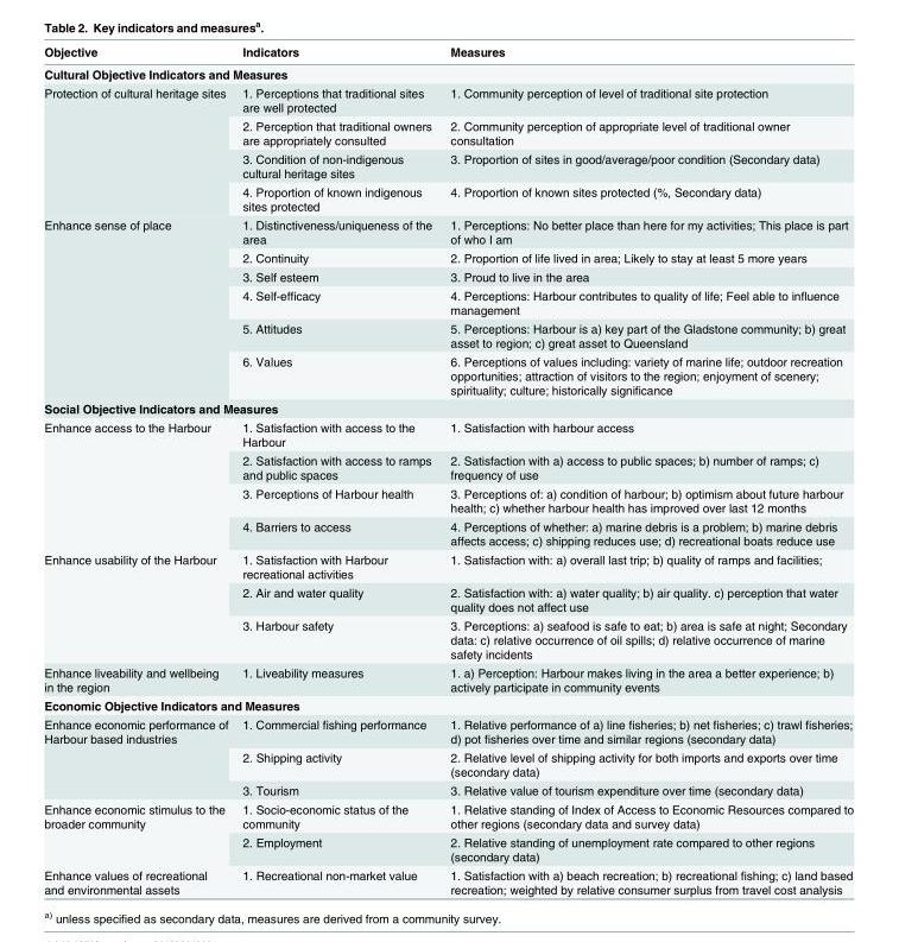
<table><thead><tr><td>Objective</td><td>Indicators</td><td>Measures</td></tr></thead><tbody><tr><td colspan="3">Cultural Objective Indicators and Measures</td></tr><tr><td rowspan="4">Protection of cultural heritage sites</td><td>1. Perceptions that traditional sites are well protected</td><td>1. Community perception of level of traditional site protection</td></tr><tr><td>2. Perception that traditional owners are appropriately consulted</td><td>2. Community perception of appropriate level of traditional owner consultation</td></tr><tr><td>3. Condition of non-indigenous cultural heritage sites</td><td>3. Proportion of sites in good/average/poor condition (Secondary data)</td></tr><tr><td>4. Proportion of known indigenous sites protected</td><td>4. Proportion of known sites protected (%, Secondary data)</td></tr><tr><td rowspan="6">Enhance sense of place</td><td>1. Distinctiveness/uniqueness of the area</td><td>1. Perceptions: No better place than here for my activities; This place is part of who I am</td></tr><tr><td>2. Continuity</td><td>2. Proportion of life lived in area; Likely to stay at least 5 more years</td></tr><tr><td>3. Self esteem</td><td>3. Proud to live in the area</td></tr><tr><td>4. Self-efficacy</td><td>4. Perceptions: Harbour contributes to quality of life; Feel able to influence management</td></tr><tr><td>5. Attitudes</td><td>5. Perceptions: Harbour is a) key part of the Gladstone community; b) great asset to region; c) great asset to Queensland</td></tr><tr><td>6. Values</td><td>6. Perceptions of values including: variety of marine life; outdoor recreation opportunities; attraction of visitors to the region; enjoyment of scenery; spirituality; culture; historically significance</td></tr><tr><td colspan="3">Social Objective Indicators and Measures</td></tr><tr><td rowspan="4">Enhance access to the Harbour</td><td>1. Satisfaction with access to the Harbour</td><td>1. Satisfaction with harbour access</td></tr><tr><td>2. Satisfaction with access to ramps and public spaces</td><td>2. Satisfaction with a) access to public spaces; b) number of ramps; c) frequency of use</td></tr><tr><td>3. Perceptions of Harbour health</td><td>3. Perceptions of: a) condition of harbour; b) optimism about future harbour health; c) whether harbour health has improved over last 12 months</td></tr><tr><td>4. Barriers to access</td><td>4. Perceptions of whether: a) marine debris is a problem; b) marine debris affects access; c) shipping reduces use; d) recreational boats reduce use</td></tr><tr><td rowspan="3">Enhance usability of the Harbour</td><td>1. Satisfaction with Harbour recreational activities</td><td>1. Satisfaction with: a) overall last trip; b) quality of ramps and facilities;</td></tr><tr><td>2. Air and water quality</td><td>2. Satisfaction with: a) water quality; b) air quality. c) perception that water quality does not affect use</td></tr><tr><td>3. Harbour safety</td><td>3. Perceptions: a) seafood is safe to eat; b) area is safe at night; Secondary data: c) relative occurrence of oil spills; d) relative occurrence of marine safety incidents</td></tr><tr><td>Enhance liveability and wellbeing in the region</td><td>1. Liveability measures</td><td>1. a) Perception: Harbour makes living in the area a better experience; b) actively participate in community events</td></tr><tr><td colspan="3">Economic Objective Indicators and Measures</td></tr><tr><td rowspan="3">Enhance economic performance of Harbour based industries</td><td>1. Commercial fishing performance</td><td>1. Relative performance of a) line fisheries; b) net fisheries; c) trawl fisheries; d) pot fisheries over time and similar regions (secondary data)</td></tr><tr><td>2. Shipping activity</td><td>2. Relative level of shipping activity for both imports and exports over time (secondary data)</td></tr><tr><td>3. Tourism</td><td>3. Relative value of tourism expenditure over time (secondary data)</td></tr><tr><td rowspan="2">Enhance economic stimulus to the broader community</td><td>1. Socio-economic status of the community</td><td>1. Relative standing of Index of Access to Economic Resources compared to other regions (secondary data and survey data)</td></tr><tr><td>2. Employment</td><td>2. Relative standing of unemployment rate compared to other regions (secondary data)</td></tr><tr><td>Enhance values of recreational and environmental assets</td><td>1. Recreational non-market value</td><td>1. Satisfaction with a) beach recreation; b) recreational fishing; c) land based recreation; weighted by relative consumer surplus from travel cost analysis</td></tr></tbody></table>